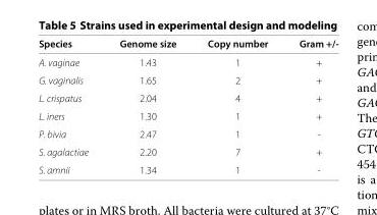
<table><thead><tr><td>Species</td><td>Genome size</td><td>Copy number</td><td>Gram +/-</td></tr></thead><tbody><tr><td>A. vaginae</td><td>1.43</td><td>1</td><td>+</td></tr><tr><td>G. vaginalis</td><td>1.65</td><td>2</td><td>+</td></tr><tr><td>L. crispatus</td><td>2.04</td><td>4</td><td>+</td></tr><tr><td>L. iners</td><td>1.30</td><td>1</td><td>+</td></tr><tr><td>P. bivia</td><td>2.47</td><td>1</td><td>-</td></tr><tr><td>S. agalactiae</td><td>2.20</td><td>7</td><td>+</td></tr><tr><td>S. amnii</td><td>1.34</td><td>1</td><td>-</td></tr></tbody></table>